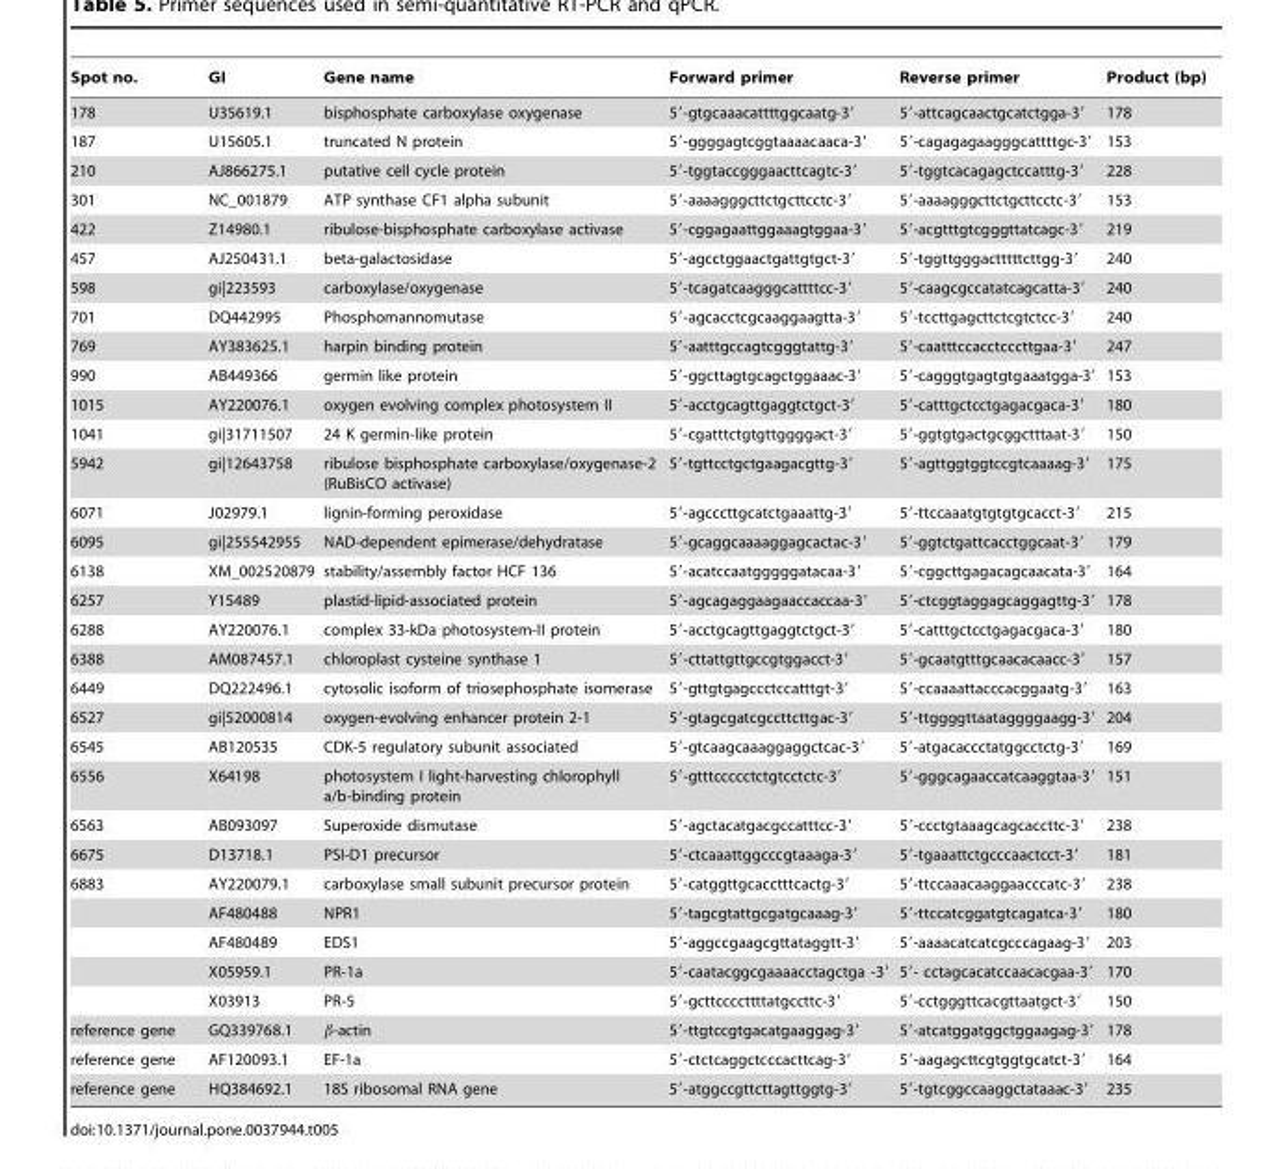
<table><thead><tr><td>Spot no.</td><td>GI</td><td>Gene name</td><td>Forward primer</td><td>Reverse primer</td><td>Product (bp)</td></tr></thead><tbody><tr><td>178</td><td>U35619.1</td><td>bisphosphate carboxylase oxygenase</td><td>5′-gtgcaaacattttggcaatg-3′</td><td>5′-attcagcaactgcatctgga-3′</td><td>178</td></tr><tr><td>187</td><td>U15605.1</td><td>truncated N protein</td><td>5′-ggggagtcggtaaaacaaca-3′</td><td>5′-cagagagaagggcattttgc-3′</td><td>153</td></tr><tr><td>210</td><td>AJ866275.1</td><td>putative cell cycle protein</td><td>5′-tggtaccgggaacttcagtc-3′</td><td>5′-tggtcacagagctccatttg-3′</td><td>228</td></tr><tr><td>301</td><td>NC_001879</td><td>ATP synthase CF1 alpha subunit</td><td>5′-aaaagggcttctgcttcctc-3′</td><td>5′-aaaagggcttctgcttcctc-3′</td><td>153</td></tr><tr><td>422</td><td>Z14980.1</td><td>ribulose-bisphosphate carboxylase activase</td><td>5′-cggagaattggaaagtggaa-3′</td><td>5′-acgtttgtcgggttatcagc-3′</td><td>219</td></tr><tr><td>457</td><td>AJ250431.1</td><td>beta-galactosidase</td><td>5′-agcctggaactgattgtgct-3′</td><td>5′-tggttgggactttttcttgg-3′</td><td>240</td></tr><tr><td>598</td><td>gi|223593</td><td>carboxylase/oxygenase</td><td>5′-tcagatcaagggcattttcc-3′</td><td>5′-caagcgccatatcagcatta-3′</td><td>240</td></tr><tr><td>701</td><td>DQ442995</td><td>Phosphomannomutase</td><td>5′-agcacctcgcaaggaagtta-3′</td><td>5′-tccttgagcttctcgtctcc-3′</td><td>240</td></tr><tr><td>769</td><td>AY383625.1</td><td>harpin binding protein</td><td>5′-aatttgccagtcgggtattg-3′</td><td>5′-caatttccacctcccttgaa-3′</td><td>247</td></tr><tr><td>990</td><td>AB449366</td><td>germin like protein</td><td>5′-ggcttagtgcagctggaaac-3′</td><td>5′-cagggtgagtgtgaaatgga-3′</td><td>153</td></tr><tr><td>1015</td><td>AY220076.1</td><td>oxygen evolving complex photosystem II</td><td>5′-acctgcagttgaggtctgct-3′</td><td>5′-catttgctcctgagacgaca-3′</td><td>180</td></tr><tr><td>1041</td><td>gi|31711507</td><td>24 K germin-like protein</td><td>5′-cgatttctgtgttggggact-3′</td><td>5′-ggtgtgactgcggctttaat-3′</td><td>150</td></tr><tr><td>5942</td><td>gi|12643758</td><td>ribulose bisphosphate carboxylase/oxygenase-2 (RuBisCO activase)</td><td>5′-tgttcctgctgaagacgttg-3′</td><td>5′-agttggtggtccgtcaaaag-3′</td><td>175</td></tr><tr><td>6071</td><td>J02979.1</td><td>lignin-forming peroxidase</td><td>5′-agcccttgcatctgaaattg-3′</td><td>5′-ttccaaatgtgtgtgcacct-3′</td><td>215</td></tr><tr><td>6095</td><td>gi|255542955</td><td>NAD-dependent epimerase/dehydratase</td><td>5′-gcaggcaaaaggagcactac-3′</td><td>5′-ggtctgattcacctggcaat-3′</td><td>179</td></tr><tr><td>6138</td><td>XM_002520879</td><td>stability/assembly factor HCF 136</td><td>5′-acatccaatgggggatacaa-3′</td><td>5′-cggcttgagacagcaacata-3′</td><td>164</td></tr><tr><td>6257</td><td>Y15489</td><td>plastid-lipid-associated protein</td><td>5′-agcagaggaagaaccaccaa-3′</td><td>5′-ctcggtaggagcaggagttg-3′</td><td>178</td></tr><tr><td>6288</td><td>AY220076.1</td><td>complex 33-kDa photosystem-II protein</td><td>5′-acctgcagttgaggtctgct-3′</td><td>5′-catttgctcctgagacgaca-3′</td><td>180</td></tr><tr><td>6388</td><td>AM087457.1</td><td>chloroplast cysteine synthase 1</td><td>5′-cttattgttgccgtggacct-3′</td><td>5′-gcaatgtttgcaacacaacc-3′</td><td>157</td></tr><tr><td>6449</td><td>DQ222496.1</td><td>cytosolic isoform of triosephosphate isomerase</td><td>5′-gttgtgagccctccatttgt-3′</td><td>5′-ccaaaattacccacggaatg-3′</td><td>163</td></tr><tr><td>6527</td><td>gi|52000814</td><td>oxygen-evolving enhancer protein 2-1</td><td>5′-gtagcgatcgccttcttgac-3′</td><td>5′-ttggggttaataggggaagg-3′</td><td>204</td></tr><tr><td>6545</td><td>AB120535</td><td>CDK-5 regulatory subunit associated</td><td>5′-gtcaagcaaaggaggctcac-3′</td><td>5′-atgacaccctatggcctctg-3′</td><td>169</td></tr><tr><td>6556</td><td>X64198</td><td>photosystem I light-harvesting chlorophyll a/b-binding protein</td><td>5′-gtttccccctctgtcctctc-3′</td><td>5′-gggcagaaccatcaaggtaa-3′</td><td>151</td></tr><tr><td>6563</td><td>AB093097</td><td>Superoxide dismutase</td><td>5′-agctacatgacgccatttcc-3′</td><td>5′-ccctgtaaagcagcaccttc-3′</td><td>238</td></tr><tr><td>6675</td><td>D13718.1</td><td>PSI-D1 precursor</td><td>5′-ctcaaattggcccgtaaaga-3′</td><td>5′-tgaaattctgcccaactcct-3′</td><td>181</td></tr><tr><td rowspan="5">6883</td><td>AY220079.1</td><td>carboxylase small subunit precursor protein</td><td>5′-catggttgcacctttcactg-3′</td><td>5′-ttccaaacaaggaacccatc-3′</td><td>238</td></tr><tr><td>AF480488</td><td>NPR1</td><td>5′-tagcgtattgcgatgcaaag-3′</td><td>5′-ttccatcggatgtcagatca-3′</td><td>180</td></tr><tr><td>AF480489</td><td>EDS1</td><td>5′-aggccgaagcgttataggtt-3′</td><td>5′-aaaacatcatcgcccagaag-3′</td><td>203</td></tr><tr><td>X05959.1</td><td>PR-1a</td><td>5′-caatacggcgaaaacctagctga -3′</td><td>5′- cctagcacatccaacacgaa-3′</td><td>170</td></tr><tr><td>X03913</td><td>PR-5</td><td>5′-gcttccccttttatgccttc-3′</td><td>5′-cctgggttcacgttaatgct-3′</td><td>150</td></tr><tr><td>reference gene</td><td>GQ339768.1</td><td>β-actin</td><td>5′-ttgtccgtgacatgaaggag-3′</td><td>5′-atcatggatggctggaagag-3′</td><td>178</td></tr><tr><td>reference gene</td><td>AF120093.1</td><td>EF-1a</td><td>5′-ctctcaggctcccacttcag-3′</td><td>5′-aagagcttcgtggtgcatct-3′</td><td>164</td></tr><tr><td>reference gene</td><td>HQ384692.1</td><td>18S ribosomal RNA gene</td><td>5′-atggccgttcttagttggtg-3′</td><td>5′-tgtcggccaaggctataaac-3′</td><td>235</td></tr></tbody></table>